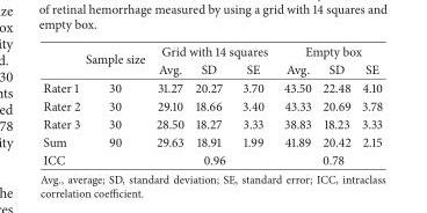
<table><thead><tr><td rowspan="2"></td><td rowspan="2">Sample size</td><td colspan="3">Grid with 14 squares</td><td colspan="3">Empty box</td></tr><tr><td>Avg.</td><td>SD</td><td>SE</td><td>Avg.</td><td>SD</td><td>SE</td></tr></thead><tbody><tr><td>Rater 1</td><td>30</td><td>31.27</td><td>20.27</td><td>3.70</td><td>43.50</td><td>22.48</td><td>4.10</td></tr><tr><td>Rater 2</td><td>30</td><td>29.10</td><td>18.66</td><td>3.40</td><td>43.33</td><td>20.69</td><td>3.78</td></tr><tr><td>Rater 3</td><td>30</td><td>28.50</td><td>18.27</td><td>3.33</td><td>38.83</td><td>18.23</td><td>3.33</td></tr><tr><td>Sum</td><td>90</td><td>29.63</td><td>18.91</td><td>1.99</td><td>41.89</td><td>20.42</td><td>2.15</td></tr><tr><td>ICC</td><td></td><td colspan="3">0.96</td><td colspan="3">0.78</td></tr></tbody></table>